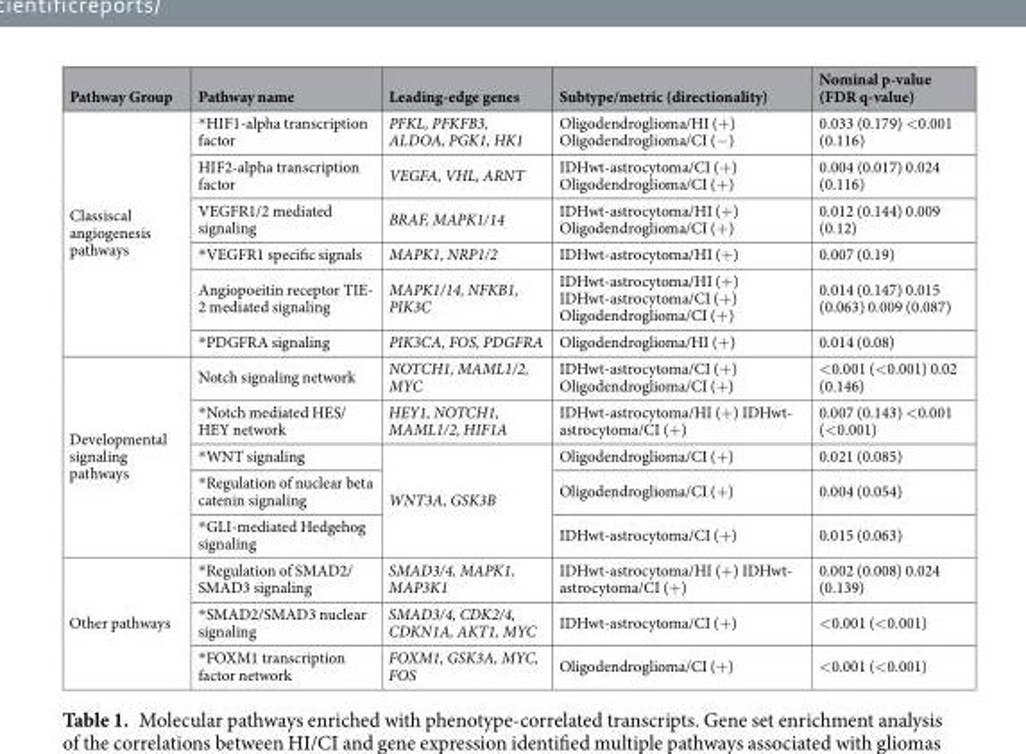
<table><thead><tr><td>Pathway Group</td><td>Pathway name</td><td>Leading-edge genes</td><td>Subtype/metric (directionality)</td><td>Nominal p-value (FDR q-value)</td></tr></thead><tbody><tr><td rowspan="6">Classiscal angiogenesis pathways</td><td>*HIF1-alpha transcription factor</td><td>PFKL, PFKFB3, ALDOA, PGK1, HK1</td><td>Oligodendroglioma/HI (+) Oligodendroglioma/CI (−)</td><td>0.033 (0.179) &lt;0.001 (0.116)</td></tr><tr><td>HIF2-alpha transcription factor</td><td>VEGFA, VHL, ARNT</td><td>IDHwt-astrocytoma/CI (+) Oligodendroglioma/CI (+)</td><td>0.004 (0.017) 0.024 (0.116)</td></tr><tr><td>VEGFR1/2 mediated signaling</td><td>BRAF, MAPK1/14</td><td>IDHwt-astrocytoma/HI (+) Oligodendroglioma/CI (+)</td><td>0.012 (0.144) 0.009 (0.12)</td></tr><tr><td>*VEGFR1 specific signals</td><td>MAPK1, NRP1/2</td><td>IDHwt-astrocytoma/HI (+)</td><td>0.007 (0.19)</td></tr><tr><td>Angiopoeitin receptor TIE- 2 mediated signaling</td><td>MAPK1/14, NFKB1, PIK3C</td><td>IDHwt-astrocytoma/HI (+) IDHwt-astrocytoma/CI (+) Oligodendroglioma/CI (+)</td><td>0.014 (0.147) 0.015 (0.063) 0.009 (0.087)</td></tr><tr><td>*PDGFRA signaling</td><td>PIK3CA, FOS, PDGFRA</td><td>Oligodendroglioma/HI (+)</td><td>0.014 (0.08)</td></tr><tr><td rowspan="5">Developmental signaling pathways</td><td>Notch signaling network</td><td>NOTCH1, MAML1/2, MYC</td><td>IDHwt-astrocytoma/CI (+) Oligodendroglioma/CI (+)</td><td>&lt;0.001 (&lt;0.001) 0.02 (0.146)</td></tr><tr><td>*Notch mediated HES/ HEY network</td><td>HEY1, NOTCH1, MAML1/2, HIF1A</td><td>IDHwt-astrocytoma/HI (+) IDHwt- astrocytoma/CI (+)</td><td>0.007 (0.143) &lt;0.001 (&lt;0.001)</td></tr><tr><td>*WNT signaling</td><td rowspan="3">WNT3A, GSK3B</td><td>Oligodendroglioma/CI (+)</td><td>0.021 (0.085)</td></tr><tr><td>*Regulation of nuclear beta catenin signaling</td><td>Oligodendroglioma/CI (+)</td><td>0.004 (0.054)</td></tr><tr><td>*GLI-mediated Hedgehog signaling</td><td>IDHwt-astrocytoma/CI (+)</td><td>0.015 (0.063)</td></tr><tr><td rowspan="3">Other pathways</td><td>*Regulation of SMAD2/ SMAD3 signaling</td><td>SMAD3/4, MAPK1, MAP3K1</td><td>IDHwt-astrocytoma/HI (+) IDHwt- astrocytoma/CI (+)</td><td>0.002 (0.008) 0.024 (0.139)</td></tr><tr><td>*SMAD2/SMAD3 nuclear signaling</td><td>SMAD3/4, CDK2/4, CDKN1A, AKT1, MYC</td><td>IDHwt-astrocytoma/CI (+)</td><td>&lt;0.001 (&lt;0.001)</td></tr><tr><td>*FOXM1 transcription factor network</td><td>FOXM1, GSK3A, MYC, FOS</td><td>Oligodendroglioma/CI (+)</td><td>&lt;0.001 (&lt;0.001)</td></tr></tbody></table>